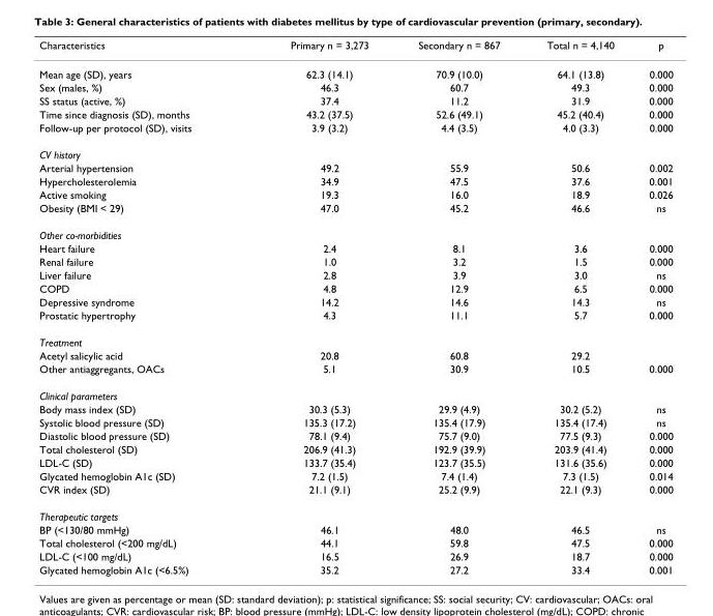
<table><thead><tr><td>Characteristics</td><td>Primary n = 3,273</td><td>Secondary n = 867</td><td>Total n = 4,140</td><td>p</td></tr></thead><tbody><tr><td>Mean age (SD), years</td><td>62.3 (14.1)</td><td>70.9 (10.0)</td><td>64.1 (13.8)</td><td>0.000</td></tr><tr><td>Sex (males, %)</td><td>46.3</td><td>60.7</td><td>49.3</td><td>0.000</td></tr><tr><td>SS status (active, %)</td><td>37.4</td><td>11.2</td><td>31.9</td><td>0.000</td></tr><tr><td>Time since diagnosis (SD), months</td><td>43.2 (37.5)</td><td>52.6 (49.1)</td><td>45.2 (40.4)</td><td>0.000</td></tr><tr><td>Follow-up per protocol (SD), visits</td><td>3.9 (3.2)</td><td>4.4 (3.5)</td><td>4.0 (3.3)</td><td>0.000</td></tr><tr><td colspan="5">CV history</td></tr><tr><td>Arterial hypertension</td><td>49.2</td><td>55.9</td><td>50.6</td><td>0.002</td></tr><tr><td>Hypercholesterolemia</td><td>34.9</td><td>47.5</td><td>37.6</td><td>0.001</td></tr><tr><td>Active smoking</td><td>19.3</td><td>16.0</td><td>18.9</td><td>0.026</td></tr><tr><td>Obesity (BMI &lt; 29)</td><td>47.0</td><td>45.2</td><td>46.6</td><td>ns</td></tr><tr><td colspan="5">Other co-morbidities</td></tr><tr><td>Heart failure</td><td>2.4</td><td>8.1</td><td>3.6</td><td>0.000</td></tr><tr><td>Renal failure</td><td>1.0</td><td>3.2</td><td>1.5</td><td>0.000</td></tr><tr><td>Liver failure</td><td>2.8</td><td>3.9</td><td>3.0</td><td>ns</td></tr><tr><td>COPD</td><td>4.8</td><td>12.9</td><td>6.5</td><td>0.000</td></tr><tr><td>Depressive syndrome</td><td>14.2</td><td>14.6</td><td>14.3</td><td>ns</td></tr><tr><td>Prostatic hypertrophy</td><td>4.3</td><td>11.1</td><td>5.7</td><td>0.000</td></tr><tr><td colspan="5">Treatment</td></tr><tr><td>Acetyl salicylic acid</td><td>20.8</td><td>60.8</td><td>29.2</td><td></td></tr><tr><td>Other antiaggregants, OACs</td><td>5.1</td><td>30.9</td><td>10.5</td><td>0.000</td></tr><tr><td colspan="5">Clinical parameters</td></tr><tr><td>Body mass index (SD)</td><td>30.3 (5.3)</td><td>29.9 (4.9)</td><td>30.2 (5.2)</td><td>ns</td></tr><tr><td>Systolic blood pressure (SD)</td><td>135.3 (17.2)</td><td>135.4 (17.9)</td><td>135.4 (17.4)</td><td>ns</td></tr><tr><td>Diastolic blood pressure (SD)</td><td>78.1 (9.4)</td><td>75.7 (9.0)</td><td>77.5 (9.3)</td><td>0.000</td></tr><tr><td>Total cholesterol (SD)</td><td>206.9 (41.3)</td><td>192.9 (39.9)</td><td>203.9 (41.4)</td><td>0.000</td></tr><tr><td>LDL-C (SD)</td><td>133.7 (35.4)</td><td>123.7 (35.5)</td><td>131.6 (35.6)</td><td>0.000</td></tr><tr><td>Glycated hemoglobin A1c (SD)</td><td>7.2 (1.5)</td><td>7.4 (1.4)</td><td>7.3 (1.5)</td><td>0.014</td></tr><tr><td>CVR index (SD)</td><td>21.1 (9.1)</td><td>25.2 (9.9)</td><td>22.1 (9.3)</td><td>0.000</td></tr><tr><td colspan="5">Therapeutic targets</td></tr><tr><td>BP (&lt;130/80 mmHg)</td><td>46.1</td><td>48.0</td><td>46.5</td><td>ns</td></tr><tr><td>Total cholesterol (&lt;200 mg/dL)</td><td>44.1</td><td>59.8</td><td>47.5</td><td>0.000</td></tr><tr><td>LDL-C (&lt;100 mg/dL)</td><td>16.5</td><td>26.9</td><td>18.7</td><td>0.000</td></tr><tr><td>Glycated hemoglobin A1c (&lt;6.5%)</td><td>35.2</td><td>27.2</td><td>33.4</td><td>0.001</td></tr></tbody></table>